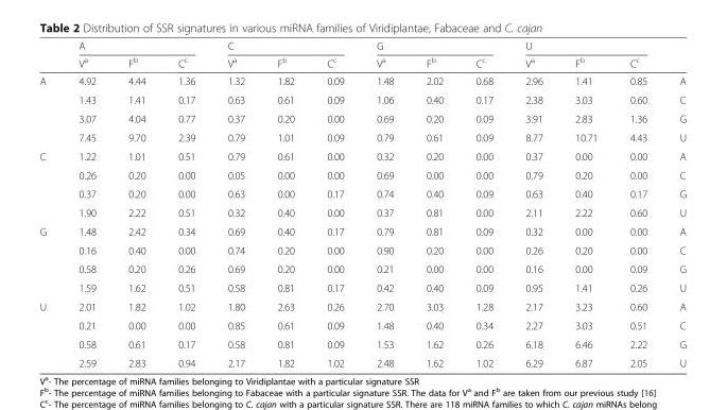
<table><thead><tr><td rowspan="2"></td><td colspan="3">A</td><td colspan="3">C</td><td colspan="3">G</td><td colspan="3">U</td><td rowspan="2"></td></tr><tr><td>V<sup>a</sup></td><td>F<sup>b</sup></td><td>C<sup>c</sup></td><td>V<sup>a</sup></td><td>F<sup>b</sup></td><td>C<sup>c</sup></td><td>V<sup>a</sup></td><td>F<sup>b</sup></td><td>C<sup>c</sup></td><td>V<sup>a</sup></td><td>F<sup>b</sup></td><td>C<sup>c</sup></td></tr></thead><tbody><tr><td rowspan="4">A</td><td>4.92</td><td>4.44</td><td>1.36</td><td>1.32</td><td>1.82</td><td>0.09</td><td>1.48</td><td>2.02</td><td>0.68</td><td>2.96</td><td>1.41</td><td>0.85</td><td>A</td></tr><tr><td>1.43</td><td>1.41</td><td>0.17</td><td>0.63</td><td>0.61</td><td>0.09</td><td>1.06</td><td>0.40</td><td>0.17</td><td>2.38</td><td>3.03</td><td>0.60</td><td>C</td></tr><tr><td>3.07</td><td>4.04</td><td>0.77</td><td>0.37</td><td>0.20</td><td>0.00</td><td>0.69</td><td>0.20</td><td>0.09</td><td>3.91</td><td>2.83</td><td>1.36</td><td>G</td></tr><tr><td>7.45</td><td>9.70</td><td>2.39</td><td>0.79</td><td>1.01</td><td>0.09</td><td>0.79</td><td>0.61</td><td>0.09</td><td>8.77</td><td>10.71</td><td>4.43</td><td>U</td></tr><tr><td rowspan="4">C</td><td>1.22</td><td>1.01</td><td>0.51</td><td>0.79</td><td>0.61</td><td>0.00</td><td>0.32</td><td>0.20</td><td>0.00</td><td>0.37</td><td>0.00</td><td>0.00</td><td>A</td></tr><tr><td>0.26</td><td>0.20</td><td>0.00</td><td>0.05</td><td>0.00</td><td>0.00</td><td>0.69</td><td>0.00</td><td>0.00</td><td>0.79</td><td>0.20</td><td>0.00</td><td>C</td></tr><tr><td>0.37</td><td>0.20</td><td>0.00</td><td>0.63</td><td>0.00</td><td>0.17</td><td>0.74</td><td>0.40</td><td>0.09</td><td>0.63</td><td>0.40</td><td>0.17</td><td>G</td></tr><tr><td>1.90</td><td>2.22</td><td>0.51</td><td>0.32</td><td>0.40</td><td>0.00</td><td>0.37</td><td>0.81</td><td>0.00</td><td>2.11</td><td>2.22</td><td>0.60</td><td>U</td></tr><tr><td rowspan="4">G</td><td>1.48</td><td>2.42</td><td>0.34</td><td>0.69</td><td>0.40</td><td>0.17</td><td>0.79</td><td>0.81</td><td>0.09</td><td>0.32</td><td>0.00</td><td>0.00</td><td>A</td></tr><tr><td>0.16</td><td>0.40</td><td>0.00</td><td>0.74</td><td>0.20</td><td>0.00</td><td>0.90</td><td>0.20</td><td>0.00</td><td>0.26</td><td>0.20</td><td>0.00</td><td>C</td></tr><tr><td>0.58</td><td>0.20</td><td>0.26</td><td>0.69</td><td>0.20</td><td>0.00</td><td>0.21</td><td>0.00</td><td>0.00</td><td>0.16</td><td>0.00</td><td>0.09</td><td>G</td></tr><tr><td>1.59</td><td>1.62</td><td>0.51</td><td>0.58</td><td>0.81</td><td>0.17</td><td>0.42</td><td>0.40</td><td>0.09</td><td>0.95</td><td>1.41</td><td>0.26</td><td>U</td></tr><tr><td rowspan="4">U</td><td>2.01</td><td>1.82</td><td>1.02</td><td>1.80</td><td>2.63</td><td>0.26</td><td>2.70</td><td>3.03</td><td>1.28</td><td>2.17</td><td>3.23</td><td>0.60</td><td>A</td></tr><tr><td>0.21</td><td>0.00</td><td>0.00</td><td>0.85</td><td>0.61</td><td>0.09</td><td>1.48</td><td>0.40</td><td>0.34</td><td>2.27</td><td>3.03</td><td>0.51</td><td>C</td></tr><tr><td>0.58</td><td>0.61</td><td>0.17</td><td>0.58</td><td>0.81</td><td>0.09</td><td>1.53</td><td>1.62</td><td>0.26</td><td>6.18</td><td>6.46</td><td>2.22</td><td>G</td></tr><tr><td>2.59</td><td>2.83</td><td>0.94</td><td>2.17</td><td>1.82</td><td>1.02</td><td>2.48</td><td>1.62</td><td>1.02</td><td>6.29</td><td>6.87</td><td>2.05</td><td>U</td></tr></tbody></table>